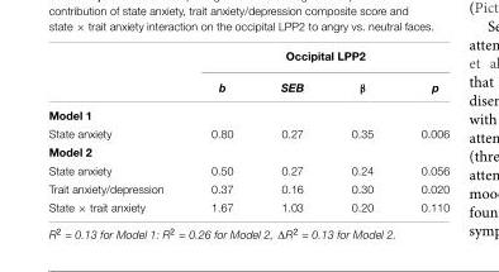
<table><thead><tr><td rowspan="2"></td><td colspan="4">Occipital LPP2</td></tr><tr><td>b</td><td>SEB</td><td>β</td><td>p</td></tr></thead><tbody><tr><td colspan="5">Model 1</td></tr><tr><td>State anxiety</td><td>0.80</td><td>0.27</td><td>0.35</td><td>0.006</td></tr><tr><td colspan="5">Model 2</td></tr><tr><td>State anxiety</td><td>0.50</td><td>0.27</td><td>0.24</td><td>0.056</td></tr><tr><td>Trait anxiety/depression</td><td>0.37</td><td>0.16</td><td>0.30</td><td>0.020</td></tr><tr><td>State × trait anxiety</td><td>1.67</td><td>1.03</td><td>0.20</td><td>0.110</td></tr></tbody></table>